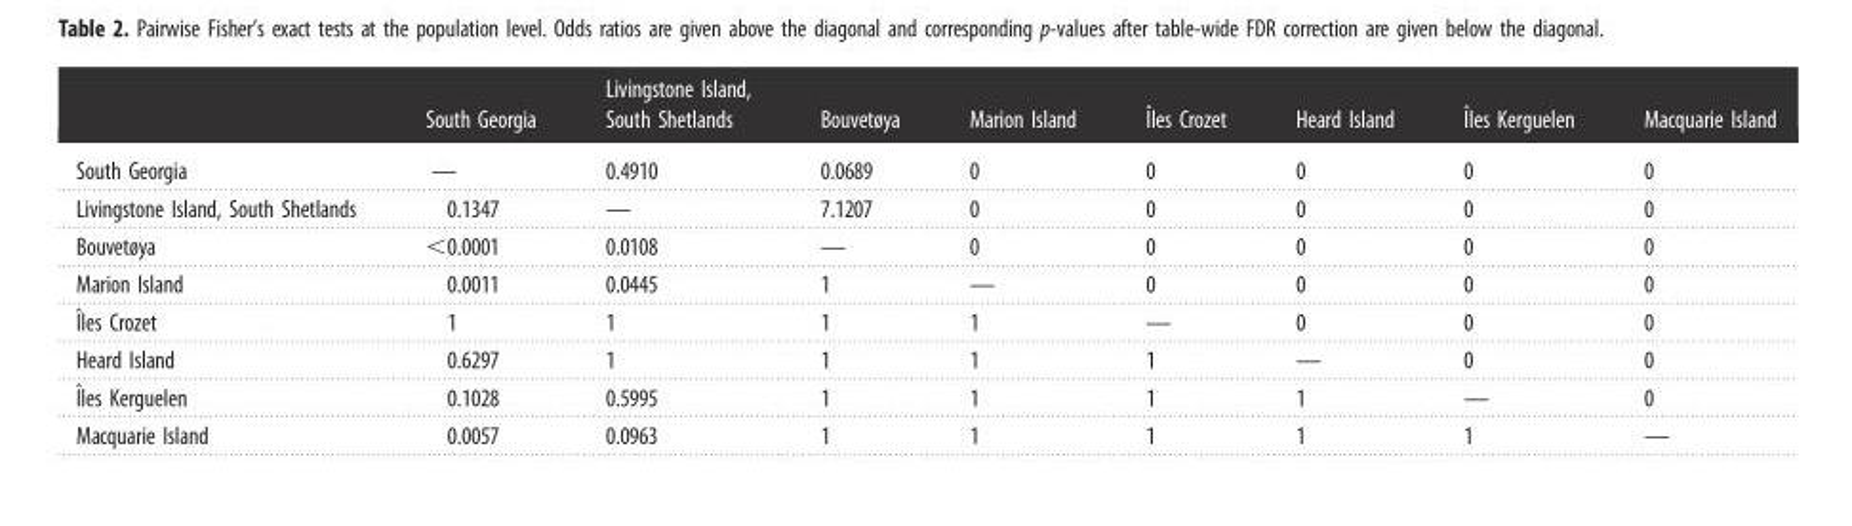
<table><thead><tr><td></td><td>South Georgia</td><td>Livingstone Island, South Shetlands</td><td>Bouvetøya</td><td>Marion Island</td><td>Iˆles Crozet</td><td>Heard Island</td><td>Iˆles Kerguelen</td><td>Macquarie Island</td></tr></thead><tbody><tr><td>South Georgia</td><td>—</td><td>0.4910</td><td>0.0689</td><td>0</td><td>0</td><td>0</td><td>0</td><td>0</td></tr><tr><td>Livingstone Island, South Shetlands</td><td>0.1347</td><td>—</td><td>7.1207</td><td>0</td><td>0</td><td>0</td><td>0</td><td>0</td></tr><tr><td>Bouvetøya</td><td>&lt;0.0001</td><td>0.0108</td><td>—</td><td>0</td><td>0</td><td>0</td><td>0</td><td>0</td></tr><tr><td>Marion Island</td><td>0.0011</td><td>0.0445</td><td>1</td><td>—</td><td>0</td><td>0</td><td>0</td><td>0</td></tr><tr><td>Iˆles Crozet</td><td>1</td><td>1</td><td>1</td><td>1</td><td>—</td><td>0</td><td>0</td><td>0</td></tr><tr><td>Heard Island</td><td>0.6297</td><td>1</td><td>1</td><td>1</td><td>1</td><td>—</td><td>0</td><td>0</td></tr><tr><td>Iˆles Kerguelen</td><td>0.1028</td><td>0.5995</td><td>1</td><td>1</td><td>1</td><td>1</td><td>—</td><td>0</td></tr><tr><td>Macquarie Island</td><td>0.0057</td><td>0.0963</td><td>1</td><td>1</td><td>1</td><td>1</td><td>1</td><td>—</td></tr></tbody></table>